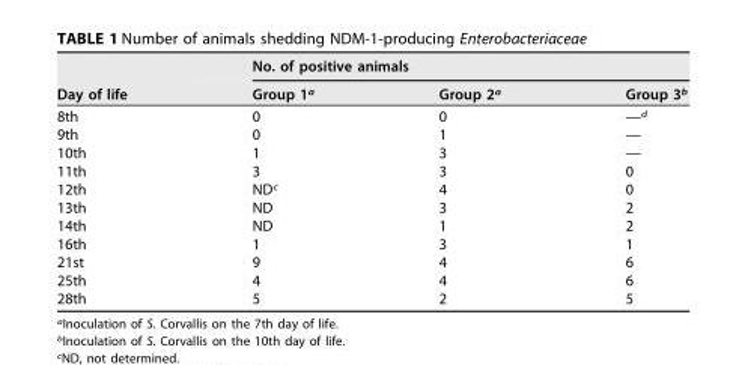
<table><thead><tr><td rowspan="2">Day of life</td><td colspan="3">No. of positive animals</td></tr><tr><td>Group 1<sup>a</sup></td><td>Group 2<sup>a</sup></td><td>Group 3<sup>b</sup></td></tr></thead><tbody><tr><td>8th</td><td>0</td><td>0</td><td>—<sup>d</sup></td></tr><tr><td>9th</td><td>0</td><td>1</td><td>—</td></tr><tr><td>10th</td><td>1</td><td>3</td><td>—</td></tr><tr><td>11th</td><td>3</td><td>3</td><td>0</td></tr><tr><td>12th</td><td>ND<sup>c</sup></td><td>4</td><td>0</td></tr><tr><td>13th</td><td>ND</td><td>3</td><td>2</td></tr><tr><td>14th</td><td>ND</td><td>1</td><td>2</td></tr><tr><td>16th</td><td>1</td><td>3</td><td>1</td></tr><tr><td>21st</td><td>9</td><td>4</td><td>6</td></tr><tr><td>25th</td><td>4</td><td>4</td><td>6</td></tr><tr><td>28th</td><td>5</td><td>2</td><td>5</td></tr></tbody></table>